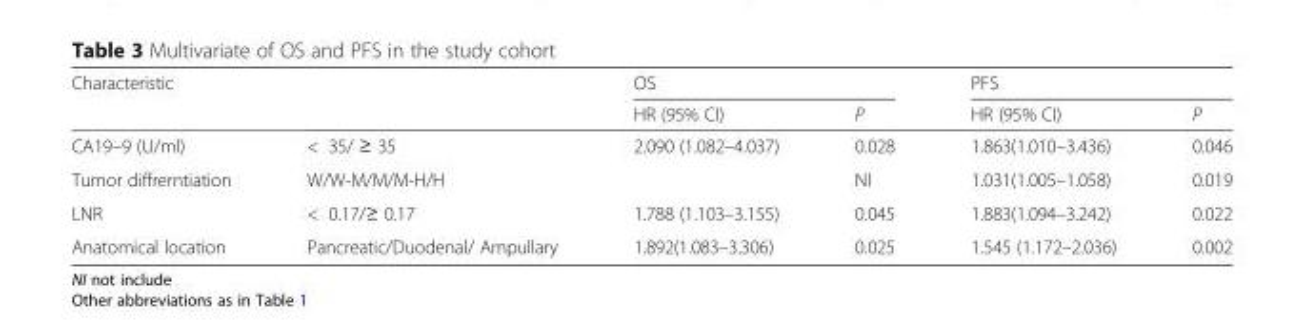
<table><thead><tr><td rowspan="2">Characteristic</td><td rowspan="2"></td><td colspan="2">OS</td><td colspan="2">PFS</td></tr><tr><td>HR (95% CI)</td><td>P</td><td>HR (95% CI)</td><td>P</td></tr></thead><tbody><tr><td>CA19–9 (U/ml)</td><td>&lt; 35/ ≥ 35</td><td>2.090 (1.082–4.037)</td><td>0.028</td><td>1.863(1.010–3.436)</td><td>0.046</td></tr><tr><td>Tumor diffrerntiation</td><td>W/W-M/M/M-H/H</td><td></td><td>NI</td><td>1.031(1.005–1.058)</td><td>0.019</td></tr><tr><td>LNR</td><td>&lt; 0.17/≥ 0.17</td><td>1.788 (1.103–3.155)</td><td>0.045</td><td>1.883(1.094–3.242)</td><td>0.022</td></tr><tr><td>Anatomical location</td><td>Pancreatic/Duodenal/ Ampullary</td><td>1.892(1.083–3.306)</td><td>0.025</td><td>1.545 (1.172–2.036)</td><td>0.002</td></tr></tbody></table>